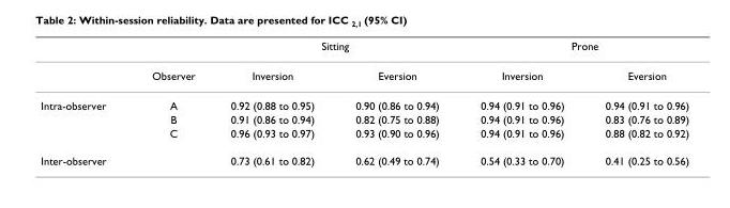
<table><thead><tr><td rowspan="2"></td><td rowspan="2">Observer</td><td colspan="2">Sitting</td><td colspan="2">Prone</td></tr><tr><td>Inversion</td><td>Eversion</td><td>Inversion</td><td>Eversion</td></tr></thead><tbody><tr><td rowspan="3">Intra-observer</td><td>A</td><td>0.92 (0.88 to 0.95)</td><td>0.90 (0.86 to 0.94)</td><td>0.94 (0.91 to 0.96)</td><td>0.94 (0.91 to 0.96)</td></tr><tr><td>B</td><td>0.91 (0.86 to 0.94)</td><td>0.82 (0.75 to 0.88)</td><td>0.94 (0.91 to 0.96)</td><td>0.83 (0.76 to 0.89)</td></tr><tr><td>C</td><td>0.96 (0.93 to 0.97)</td><td>0.93 (0.90 to 0.96)</td><td>0.94 (0.91 to 0.96)</td><td>0.88 (0.82 to 0.92)</td></tr><tr><td>Inter-observer</td><td></td><td>0.73 (0.61 to 0.82)</td><td>0.62 (0.49 to 0.74)</td><td>0.54 (0.33 to 0.70)</td><td>0.41 (0.25 to 0.56)</td></tr></tbody></table>